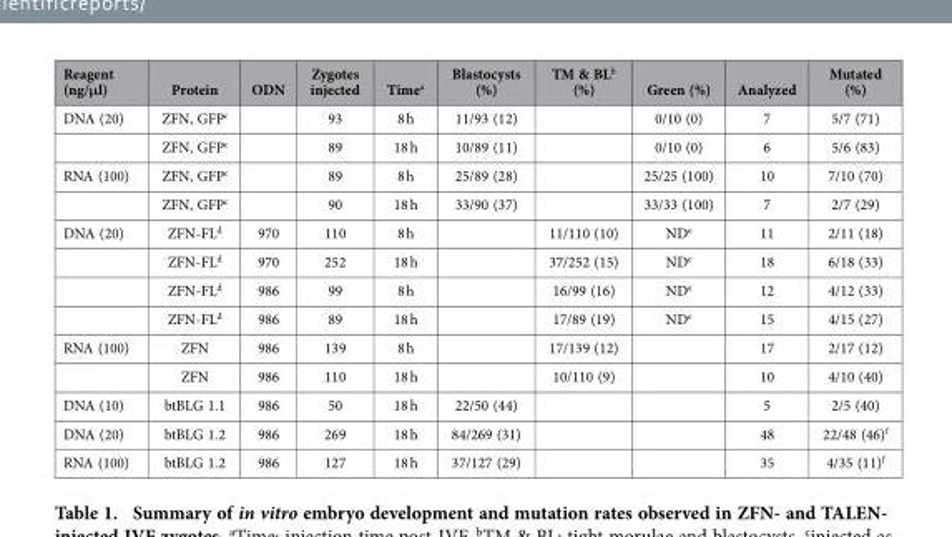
<table><thead><tr><td>Reagent (ng/μl)</td><td>Protein</td><td>ODN</td><td>Zygotes injected</td><td>Time<sup>a</sup></td><td>Blastocysts (%)</td><td>TM &amp; BL<sup>b</sup> (%)</td><td>Green (%)</td><td>Analyzed</td><td>Mutated (%)</td></tr></thead><tbody><tr><td rowspan="2">DNA (20)</td><td>ZFN, GFP<sup>c</sup></td><td></td><td>93</td><td>8 h</td><td>11/93 (12)</td><td></td><td>0/10 (0)</td><td>7</td><td>5/7 (71)</td></tr><tr><td>ZFN, GFP<sup>c</sup></td><td></td><td>89</td><td>18 h</td><td>10/89 (11)</td><td></td><td>0/10 (0)</td><td>6</td><td>5/6 (83)</td></tr><tr><td rowspan="2">RNA (100)</td><td>ZFN, GFP<sup>c</sup></td><td></td><td>89</td><td>8 h</td><td>25/89 (28)</td><td></td><td>25/25 (100)</td><td>10</td><td>7/10 (70)</td></tr><tr><td>ZFN, GFP<sup>c</sup></td><td></td><td>90</td><td>18 h</td><td>33/90 (37)</td><td></td><td>33/33 (100)</td><td>7</td><td>2/7 (29)</td></tr><tr><td rowspan="4">DNA (20)</td><td>ZFN-FL<sup>d</sup></td><td>970</td><td>110</td><td>8 h</td><td></td><td>11/110 (10)</td><td>ND<sup>e</sup></td><td>11</td><td>2/11 (18)</td></tr><tr><td>ZFN-FL<sup>d</sup></td><td>970</td><td>252</td><td>18 h</td><td></td><td>37/252 (15)</td><td>ND<sup>e</sup></td><td>18</td><td>6/18 (33)</td></tr><tr><td>ZFN-FL<sup>d</sup></td><td>986</td><td>99</td><td>8 h</td><td></td><td>16/99 (16)</td><td>ND<sup>e</sup></td><td>12</td><td>4/12 (33)</td></tr><tr><td>ZFN-FL<sup>d</sup></td><td>986</td><td>89</td><td>18 h</td><td></td><td>17/89 (19)</td><td>ND<sup>e</sup></td><td>15</td><td>4/15 (27)</td></tr><tr><td rowspan="2">RNA (100)</td><td>ZFN</td><td>986</td><td>139</td><td>8 h</td><td></td><td>17/139 (12)</td><td></td><td>17</td><td>2/17 (12)</td></tr><tr><td>ZFN</td><td>986</td><td>110</td><td>18 h</td><td></td><td>10/110 (9)</td><td></td><td>10</td><td>4/10 (40)</td></tr><tr><td>DNA (10)</td><td>btBLG 1.1</td><td>986</td><td>50</td><td>18 h</td><td>22/50 (44)</td><td></td><td></td><td>5</td><td>2/5 (40)</td></tr><tr><td>DNA (20)</td><td>btBLG 1.2</td><td>986</td><td>269</td><td>18 h</td><td>84/269 (31)</td><td></td><td></td><td>48</td><td>22/48 (46)<sup>f</sup></td></tr><tr><td>RNA (100)</td><td>btBLG 1.2</td><td>986</td><td>127</td><td>18 h</td><td>37/127 (29)</td><td></td><td></td><td>35</td><td>4/35 (11)<sup>f</sup></td></tr></tbody></table>